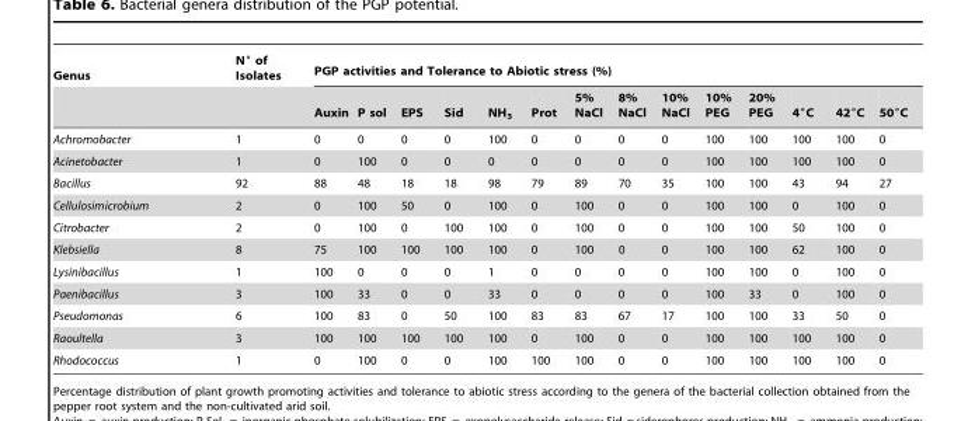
<table><thead><tr><td rowspan="2">Genus</td><td rowspan="2">N° of Isolates</td><td colspan="14">PGP activities and Tolerance to Abiotic stress (%)</td></tr><tr><td>Auxin</td><td>P sol</td><td>EPS</td><td>Sid</td><td>NH<sub>3</sub></td><td>Prot</td><td>5% NaCl</td><td>8% NaCl</td><td>10% NaCl</td><td>10% PEG</td><td>20% PEG</td><td>4°C</td><td>42°C</td><td>50°C</td></tr></thead><tbody><tr><td>Achromobacter</td><td>1</td><td>0</td><td>0</td><td>0</td><td>0</td><td>100</td><td>0</td><td>0</td><td>0</td><td>0</td><td>100</td><td>100</td><td>100</td><td>100</td><td>0</td></tr><tr><td>Acinetobacter</td><td>1</td><td>0</td><td>100</td><td>0</td><td>0</td><td>0</td><td>0</td><td>0</td><td>0</td><td>0</td><td>100</td><td>100</td><td>100</td><td>100</td><td>0</td></tr><tr><td>Bacillus</td><td>92</td><td>88</td><td>48</td><td>18</td><td>18</td><td>98</td><td>79</td><td>89</td><td>70</td><td>35</td><td>100</td><td>100</td><td>43</td><td>94</td><td>27</td></tr><tr><td>Cellulosimicrobium</td><td>2</td><td>0</td><td>100</td><td>50</td><td>0</td><td>100</td><td>0</td><td>100</td><td>0</td><td>0</td><td>100</td><td>100</td><td>0</td><td>100</td><td>0</td></tr><tr><td>Citrobacter</td><td>2</td><td>0</td><td>100</td><td>0</td><td>100</td><td>100</td><td>0</td><td>100</td><td>0</td><td>0</td><td>100</td><td>100</td><td>50</td><td>100</td><td>0</td></tr><tr><td>Klebsiella</td><td>8</td><td>75</td><td>100</td><td>100</td><td>100</td><td>100</td><td>0</td><td>100</td><td>0</td><td>0</td><td>100</td><td>100</td><td>62</td><td>100</td><td>0</td></tr><tr><td>Lysinibacillus</td><td>1</td><td>100</td><td>0</td><td>0</td><td>0</td><td>1</td><td>0</td><td>0</td><td>0</td><td>0</td><td>100</td><td>100</td><td>0</td><td>100</td><td>0</td></tr><tr><td>Paenibacillus</td><td>3</td><td>100</td><td>33</td><td>0</td><td>0</td><td>33</td><td>0</td><td>0</td><td>0</td><td>0</td><td>100</td><td>33</td><td>0</td><td>100</td><td>0</td></tr><tr><td>Pseudomonas</td><td>6</td><td>100</td><td>83</td><td>0</td><td>50</td><td>100</td><td>83</td><td>83</td><td>67</td><td>17</td><td>100</td><td>100</td><td>33</td><td>50</td><td>0</td></tr><tr><td>Raoultella</td><td>3</td><td>100</td><td>100</td><td>100</td><td>100</td><td>100</td><td>0</td><td>100</td><td>0</td><td>0</td><td>100</td><td>100</td><td>100</td><td>100</td><td>0</td></tr><tr><td>Rhodococcus</td><td>1</td><td>0</td><td>100</td><td>0</td><td>0</td><td>100</td><td>100</td><td>100</td><td>0</td><td>0</td><td>100</td><td>100</td><td>100</td><td>100</td><td>0</td></tr></tbody></table>